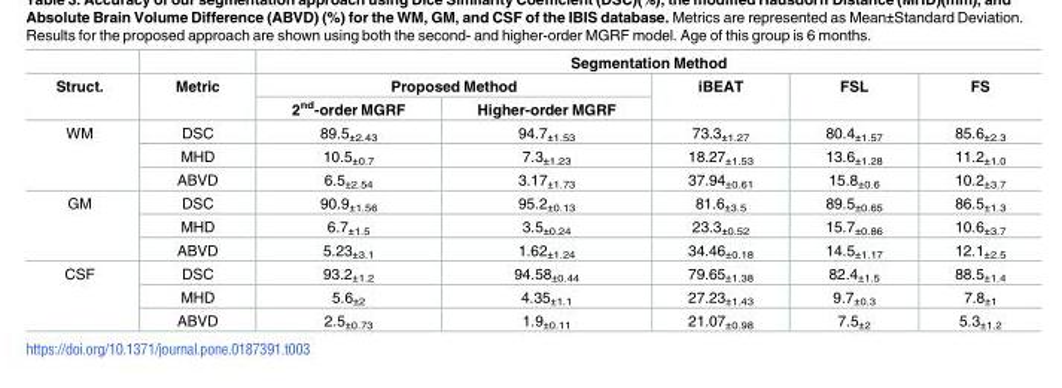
<table><thead><tr><td rowspan="3">Struct.</td><td rowspan="3">Metric</td><td colspan="5">Segmentation Method</td></tr><tr><td colspan="2">Proposed Method</td><td rowspan="2">iBEAT</td><td rowspan="2">FSL</td><td rowspan="2">FS</td></tr><tr><td>2<sup>nd</sup>-order MGRF</td><td>Higher-order MGRF</td></tr></thead><tbody><tr><td rowspan="3">WM</td><td>DSC</td><td>89.5<sub>±2.43</sub></td><td>94.7<sub>±1.53</sub></td><td>73.3<sub>±1.27</sub></td><td>80.4<sub>±1.57</sub></td><td>85.6<sub>±2.3</sub></td></tr><tr><td>MHD</td><td>10.5<sub>±0.7</sub></td><td>7.3<sub>±1.23</sub></td><td>18.27<sub>±1.53</sub></td><td>13.6<sub>±1.28</sub></td><td>11.2<sub>±1.0</sub></td></tr><tr><td>ABVD</td><td>6.5<sub>±2.54</sub></td><td>3.17<sub>±1.73</sub></td><td>37.94<sub>±0.61</sub></td><td>15.8<sub>±0.6</sub></td><td>10.2<sub>±3.7</sub></td></tr><tr><td rowspan="3">GM</td><td>DSC</td><td>90.9<sub>±1.56</sub></td><td>95.2<sub>±0.13</sub></td><td>81.6<sub>±3.5</sub></td><td>89.5<sub>±0.65</sub></td><td>86.5<sub>±1.3</sub></td></tr><tr><td>MHD</td><td>6.7<sub>±1.5</sub></td><td>3.5<sub>±0.24</sub></td><td>23.3<sub>±0.52</sub></td><td>15.7<sub>±0.86</sub></td><td>10.6<sub>±3.7</sub></td></tr><tr><td>ABVD</td><td>5.23<sub>±3.1</sub></td><td>1.62<sub>±1.24</sub></td><td>34.46<sub>±0.18</sub></td><td>14.5<sub>±1.17</sub></td><td>12.1<sub>±2.5</sub></td></tr><tr><td rowspan="3">CSF</td><td>DSC</td><td>93.2<sub>±1.2</sub></td><td>94.58<sub>±0.44</sub></td><td>79.65<sub>±1.38</sub></td><td>82.4<sub>±1.5</sub></td><td>88.5<sub>±1.4</sub></td></tr><tr><td>MHD</td><td>5.6<sub>±2</sub></td><td>4.35<sub>±1.1</sub></td><td>27.23<sub>±1.43</sub></td><td>9.7<sub>±0.3</sub></td><td>7.8<sub>±1</sub></td></tr><tr><td>ABVD</td><td>2.5<sub>±0.73</sub></td><td>1.9<sub>±0.11</sub></td><td>21.07<sub>±0.98</sub></td><td>7.5<sub>±2</sub></td><td>5.3<sub>±1.2</sub></td></tr></tbody></table>